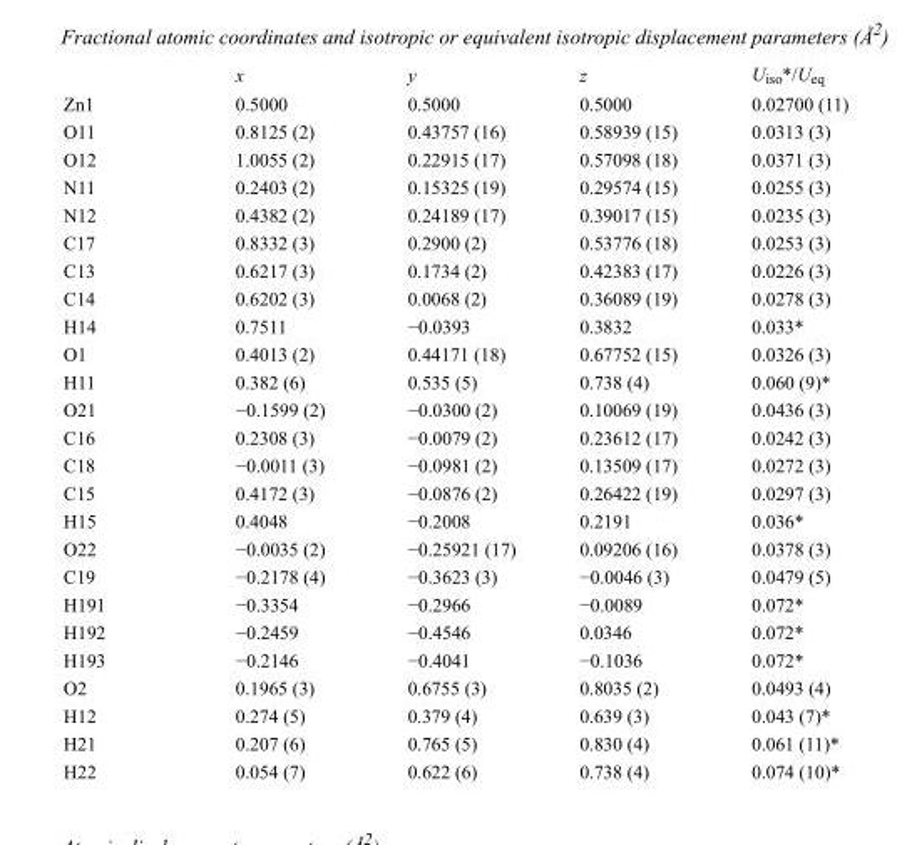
<table><thead><tr><td></td><td>x</td><td>y</td><td>z</td><td>U<sub>iso</sub>*/U<sub>eq</sub></td></tr></thead><tbody><tr><td>Zn1</td><td>0.5000</td><td>0.5000</td><td>0.5000</td><td>0.02700 (11)</td></tr><tr><td>O11</td><td>0.8125 (2)</td><td>0.43757 (16)</td><td>0.58939 (15)</td><td>0.0313 (3)</td></tr><tr><td>O12</td><td>1.0055 (2)</td><td>0.22915 (17)</td><td>0.57098 (18)</td><td>0.0371 (3)</td></tr><tr><td>N11</td><td>0.2403 (2)</td><td>0.15325 (19)</td><td>0.29574 (15)</td><td>0.0255 (3)</td></tr><tr><td>N12</td><td>0.4382 (2)</td><td>0.24189 (17)</td><td>0.39017 (15)</td><td>0.0235 (3)</td></tr><tr><td>C17</td><td>0.8332 (3)</td><td>0.2900 (2)</td><td>0.53776 (18)</td><td>0.0253 (3)</td></tr><tr><td>C13</td><td>0.6217 (3)</td><td>0.1734 (2)</td><td>0.42383 (17)</td><td>0.0226 (3)</td></tr><tr><td>C14</td><td>0.6202 (3)</td><td>0.0068 (2)</td><td>0.36089 (19)</td><td>0.0278 (3)</td></tr><tr><td>H14</td><td>0.7511</td><td>−0.0393</td><td>0.3832</td><td>0.033*</td></tr><tr><td>O1</td><td>0.4013 (2)</td><td>0.44171 (18)</td><td>0.67752 (15)</td><td>0.0326 (3)</td></tr><tr><td>H11</td><td>0.382 (6)</td><td>0.535 (5)</td><td>0.738 (4)</td><td>0.060 (9)*</td></tr><tr><td>O21</td><td>−0.1599 (2)</td><td>−0.0300 (2)</td><td>0.10069 (19)</td><td>0.0436 (3)</td></tr><tr><td>C16</td><td>0.2308 (3)</td><td>−0.0079 (2)</td><td>0.23612 (17)</td><td>0.0242 (3)</td></tr><tr><td>C18</td><td>−0.0011 (3)</td><td>−0.0981 (2)</td><td>0.13509 (17)</td><td>0.0272 (3)</td></tr><tr><td>C15</td><td>0.4172 (3)</td><td>−0.0876 (2)</td><td>0.26422 (19)</td><td>0.0297 (3)</td></tr><tr><td>H15</td><td>0.4048</td><td>−0.2008</td><td>0.2191</td><td>0.036*</td></tr><tr><td>O22</td><td>−0.0035 (2)</td><td>−0.25921 (17)</td><td>0.09206 (16)</td><td>0.0378 (3)</td></tr><tr><td>C19</td><td>−0.2178 (4)</td><td>−0.3623 (3)</td><td>−0.0046 (3)</td><td>0.0479 (5)</td></tr><tr><td>H191</td><td>−0.3354</td><td>−0.2966</td><td>−0.0089</td><td>0.072*</td></tr><tr><td>H192</td><td>−0.2459</td><td>−0.4546</td><td>0.0346</td><td>0.072*</td></tr><tr><td>H193</td><td>−0.2146</td><td>−0.4041</td><td>−0.1036</td><td>0.072*</td></tr><tr><td>O2</td><td>0.1965 (3)</td><td>0.6755 (3)</td><td>0.8035 (2)</td><td>0.0493 (4)</td></tr><tr><td>H12</td><td>0.274 (5)</td><td>0.379 (4)</td><td>0.639 (3)</td><td>0.043 (7)*</td></tr><tr><td>H21</td><td>0.207 (6)</td><td>0.765 (5)</td><td>0.830 (4)</td><td>0.061 (11)*</td></tr><tr><td>H22</td><td>0.054 (7)</td><td>0.622 (6)</td><td>0.738 (4)</td><td>0.074 (10)*</td></tr></tbody></table>